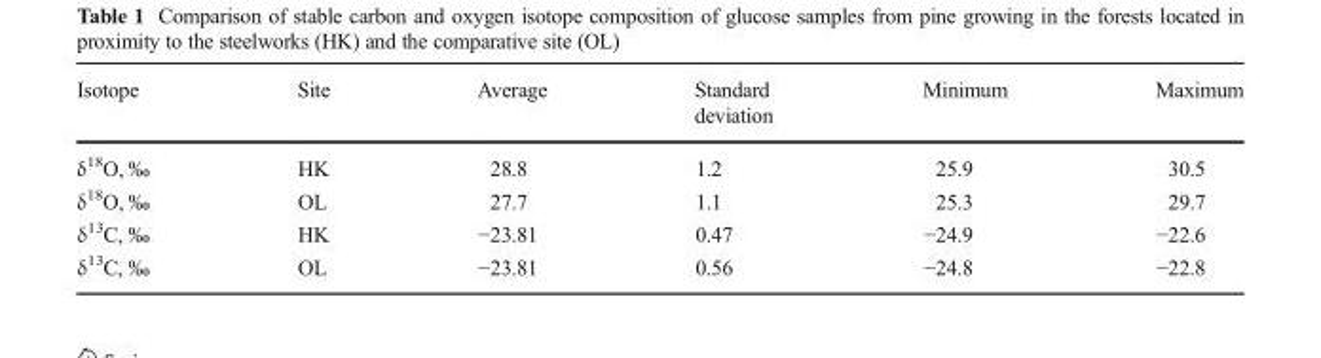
<table><thead><tr><td>Isotope</td><td>Site</td><td>Average</td><td>Standard deviation</td><td>Minimum</td><td>Maximum</td></tr></thead><tbody><tr><td>δ<sup>18</sup>O, ‰</td><td>HK</td><td>28.8</td><td>1.2</td><td>25.9</td><td>30.5</td></tr><tr><td>δ<sup>18</sup>O, ‰</td><td>OL</td><td>27.7</td><td>1.1</td><td>25.3</td><td>29.7</td></tr><tr><td>δ<sup>13</sup>C, ‰</td><td>HK</td><td>−23.81</td><td>0.47</td><td>−24.9</td><td>−22.6</td></tr><tr><td>δ<sup>13</sup>C, ‰</td><td>OL</td><td>−23.81</td><td>0.56</td><td>−24.8</td><td>−22.8</td></tr></tbody></table>